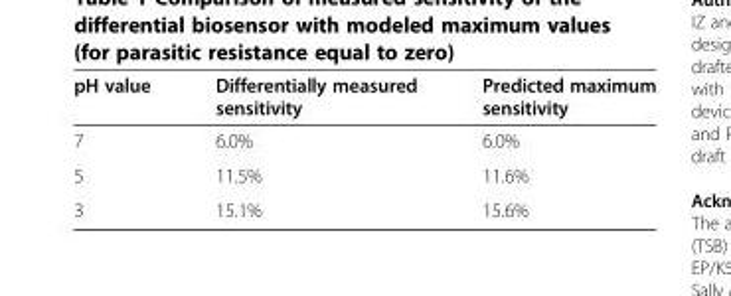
<table><thead><tr><td>pH value</td><td>Differentially measured sensitivity</td><td>Predicted maximum sensitivity</td></tr></thead><tbody><tr><td>7</td><td>6.0%</td><td>6.0%</td></tr><tr><td>5</td><td>11.5%</td><td>11.6%</td></tr><tr><td>3</td><td>15.1%</td><td>15.6%</td></tr></tbody></table>